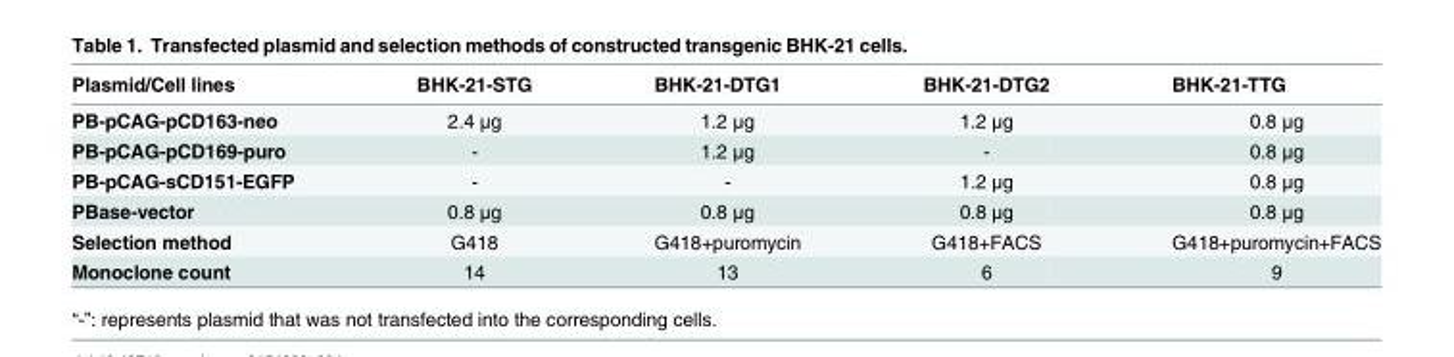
<table><thead><tr><td>Plasmid/Cell lines</td><td>BHK-21-STG</td><td>BHK-21-DTG1</td><td>BHK-21-DTG2</td><td>BHK-21-TTG</td></tr></thead><tbody><tr><td>PB-pCAG-pCD163-neo</td><td>2.4 μg</td><td>1.2 μg</td><td>1.2 μg</td><td>0.8 μg</td></tr><tr><td>PB-pCAG-pCD169-puro</td><td>-</td><td>1.2 μg</td><td>-</td><td>0.8 μg</td></tr><tr><td>PB-pCAG-sCD151-EGFP</td><td>-</td><td>-</td><td>1.2 μg</td><td>0.8 μg</td></tr><tr><td>PBase-vector</td><td>0.8 μg</td><td>0.8 μg</td><td>0.8 μg</td><td>0.8 μg</td></tr><tr><td>Selection method</td><td>G418</td><td>G418+puromycin</td><td>G418+FACS</td><td>G418+puromycin+FACS</td></tr><tr><td>Monoclone count</td><td>14</td><td>13</td><td>6</td><td>9</td></tr></tbody></table>